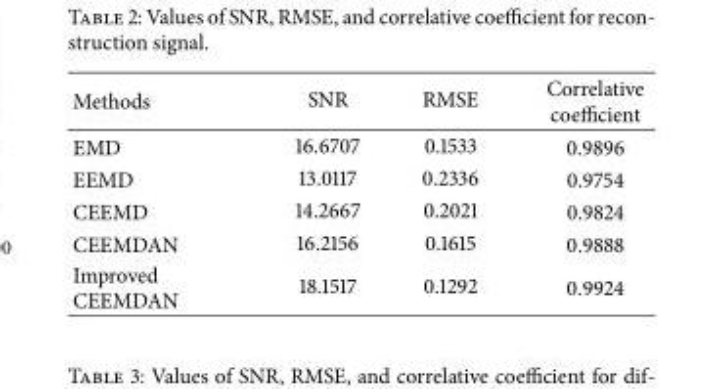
<table><thead><tr><td>Methods</td><td>SNR</td><td>RMSE</td><td>Correlative coefficient</td></tr></thead><tbody><tr><td>EMD</td><td>16.6707</td><td>0.1533</td><td>0.9896</td></tr><tr><td>EEMD</td><td>13.0117</td><td>0.2336</td><td>0.9754</td></tr><tr><td>CEEMD</td><td>14.2667</td><td>0.2021</td><td>0.9824</td></tr><tr><td>CEEMDAN</td><td>16.2156</td><td>0.1615</td><td>0.9888</td></tr><tr><td>Improved CEEMDAN</td><td>18.1517</td><td>0.1292</td><td>0.9924</td></tr></tbody></table>